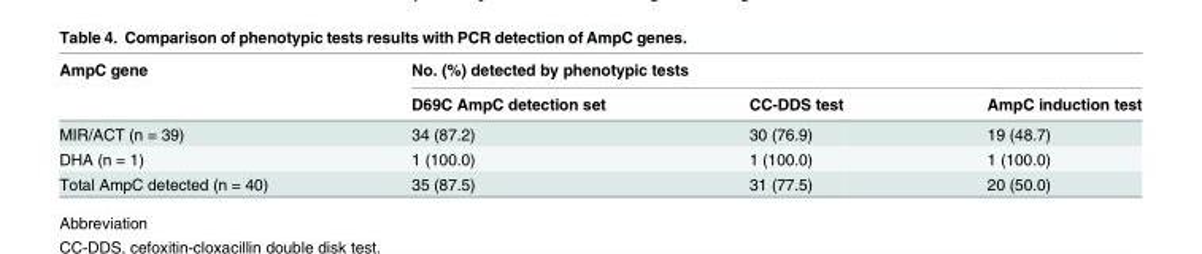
<table><thead><tr><td rowspan="2">AmpC gene</td><td colspan="3">No. (%) detected by phenotypic tests</td></tr><tr><td>D69C AmpC detection set</td><td>CC-DDS test</td><td>AmpC induction test</td></tr></thead><tbody><tr><td>MIR/ACT (n = 39)</td><td>34 (87.2)</td><td>30 (76.9)</td><td>19 (48.7)</td></tr><tr><td>DHA (n = 1)</td><td>1 (100.0)</td><td>1 (100.0)</td><td>1 (100.0)</td></tr><tr><td>Total AmpC detected (n = 40)</td><td>35 (87.5)</td><td>31 (77.5)</td><td>20 (50.0)</td></tr></tbody></table>